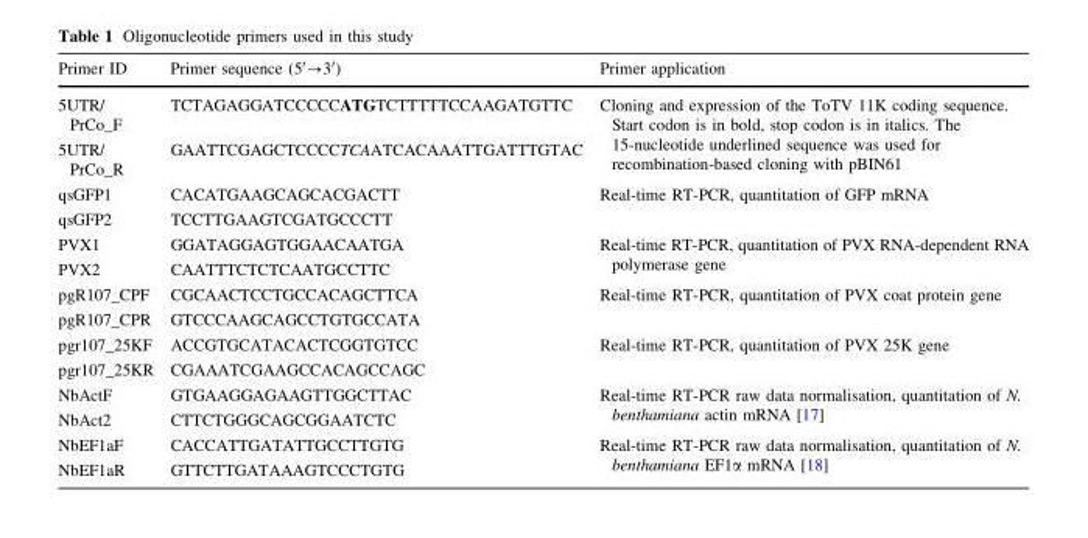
<table><thead><tr><td>Primer ID</td><td>Primer sequence (5′→3′)</td><td>Primer application</td></tr></thead><tbody><tr><td>5UTR/ PrCo_F</td><td>TCTAGAGGATCCCCCATGTCTTTTTCCAAGATGTTC</td><td rowspan="2">Cloning and expression of the ToTV 11K coding sequence. Start codon is in bold, stop codon is in italics. The 15-nucleotide underlined sequence was used for recombination-based cloning with pBIN61</td></tr><tr><td>5UTR/ PrCo_R</td><td>GAATTCGAGCTCCCCTCAATCACAAATTGATTTGTAC</td></tr><tr><td>qsGFP1</td><td>CACATGAAGCAGCACGACTT</td><td rowspan="2">Real-time RT-PCR, quantitation of GFP mRNA</td></tr><tr><td>qsGFP2</td><td>TCCTTGAAGTCGATGCCCTT</td></tr><tr><td>PVX1</td><td>GGATAGGAGTGGAACAATGA</td><td rowspan="2">Real-time RT-PCR, quantitation of PVX RNA-dependent RNA polymerase gene</td></tr><tr><td>PVX2</td><td>CAATTTCTCTCAATGCCTTC</td></tr><tr><td>pgR107_CPF</td><td>CGCAACTCCTGCCACAGCTTCA</td><td rowspan="2">Real-time RT-PCR, quantitation of PVX coat protein gene</td></tr><tr><td>pgR107_CPR</td><td>GTCCCAAGCAGCCTGTGCCATA</td></tr><tr><td>pgr107_25KF</td><td>ACCGTGCATACACTCGGTGTCC</td><td rowspan="2">Real-time RT-PCR, quantitation of PVX 25K gene</td></tr><tr><td>pgr107_25KR</td><td>CGAAATCGAAGCCACAGCCAGC</td></tr><tr><td>NbActF</td><td>GTGAAGGAGAAGTTGGCTTAC</td><td rowspan="2">Real-time RT-PCR raw data normalisation, quantitation of N. benthamiana actin mRNA [17]</td></tr><tr><td>NbAct2</td><td>CTTCTGGGCAGCGGAATCTC</td></tr><tr><td>NbEF1aF</td><td>CACCATTGATATTGCCTTGTG</td><td rowspan="2">Real-time RT-PCR raw data normalisation, quantitation of N. benthamiana EF1α mRNA [18]</td></tr><tr><td>NbEF1aR</td><td>GTTCTTGATAAAGTCCCTGTG</td></tr></tbody></table>